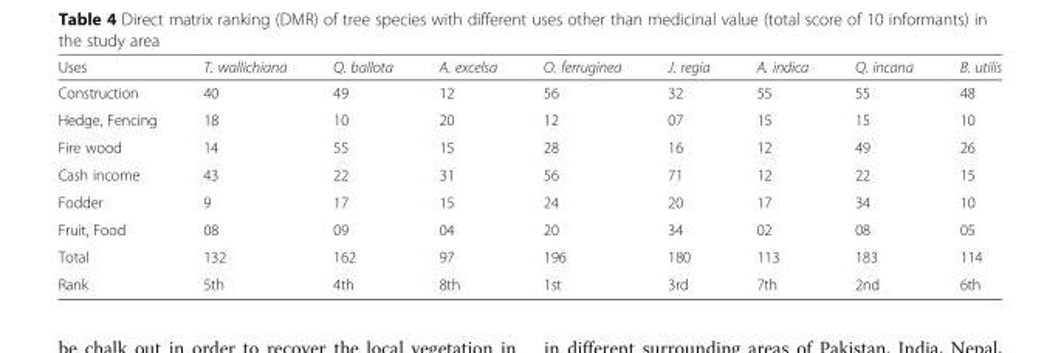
<table><thead><tr><td>Uses</td><td>T. wallichiana</td><td>Q. ballota</td><td>A. excelsa</td><td>O. ferruginea</td><td>J. regia</td><td>A. indica</td><td>Q. incana</td><td>B. utilis</td></tr></thead><tbody><tr><td>Construction</td><td>40</td><td>49</td><td>12</td><td>56</td><td>32</td><td>55</td><td>55</td><td>48</td></tr><tr><td>Hedge, Fencing</td><td>18</td><td>10</td><td>20</td><td>12</td><td>07</td><td>15</td><td>15</td><td>10</td></tr><tr><td>Fire wood</td><td>14</td><td>55</td><td>15</td><td>28</td><td>16</td><td>12</td><td>49</td><td>26</td></tr><tr><td>Cash income</td><td>43</td><td>22</td><td>31</td><td>56</td><td>71</td><td>12</td><td>22</td><td>15</td></tr><tr><td>Fodder</td><td>9</td><td>17</td><td>15</td><td>24</td><td>20</td><td>17</td><td>34</td><td>10</td></tr><tr><td>Fruit, Food</td><td>08</td><td>09</td><td>04</td><td>20</td><td>34</td><td>02</td><td>08</td><td>05</td></tr><tr><td>Total</td><td>132</td><td>162</td><td>97</td><td>196</td><td>180</td><td>113</td><td>183</td><td>114</td></tr><tr><td>Rank</td><td>5th</td><td>4th</td><td>8th</td><td>1st</td><td>3rd</td><td>7th</td><td>2nd</td><td>6th</td></tr></tbody></table>